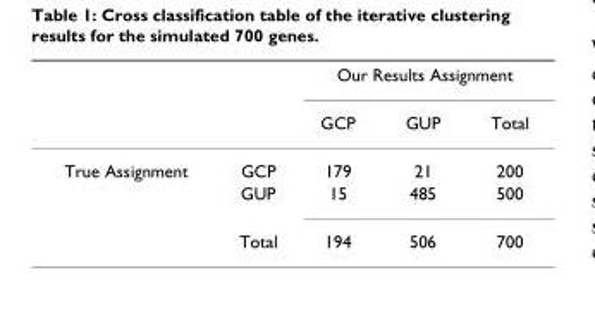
<table><thead><tr><td rowspan="2"></td><td rowspan="2"></td><td colspan="3">Our Results Assignment</td></tr><tr><td>GCP</td><td>GUP</td><td>Total</td></tr></thead><tbody><tr><td rowspan="3">True Assignment</td><td>GCP</td><td>179</td><td>21</td><td>200</td></tr><tr><td>GUP</td><td>15</td><td>485</td><td>500</td></tr><tr><td>Total</td><td>194</td><td>506</td><td>700</td></tr></tbody></table>